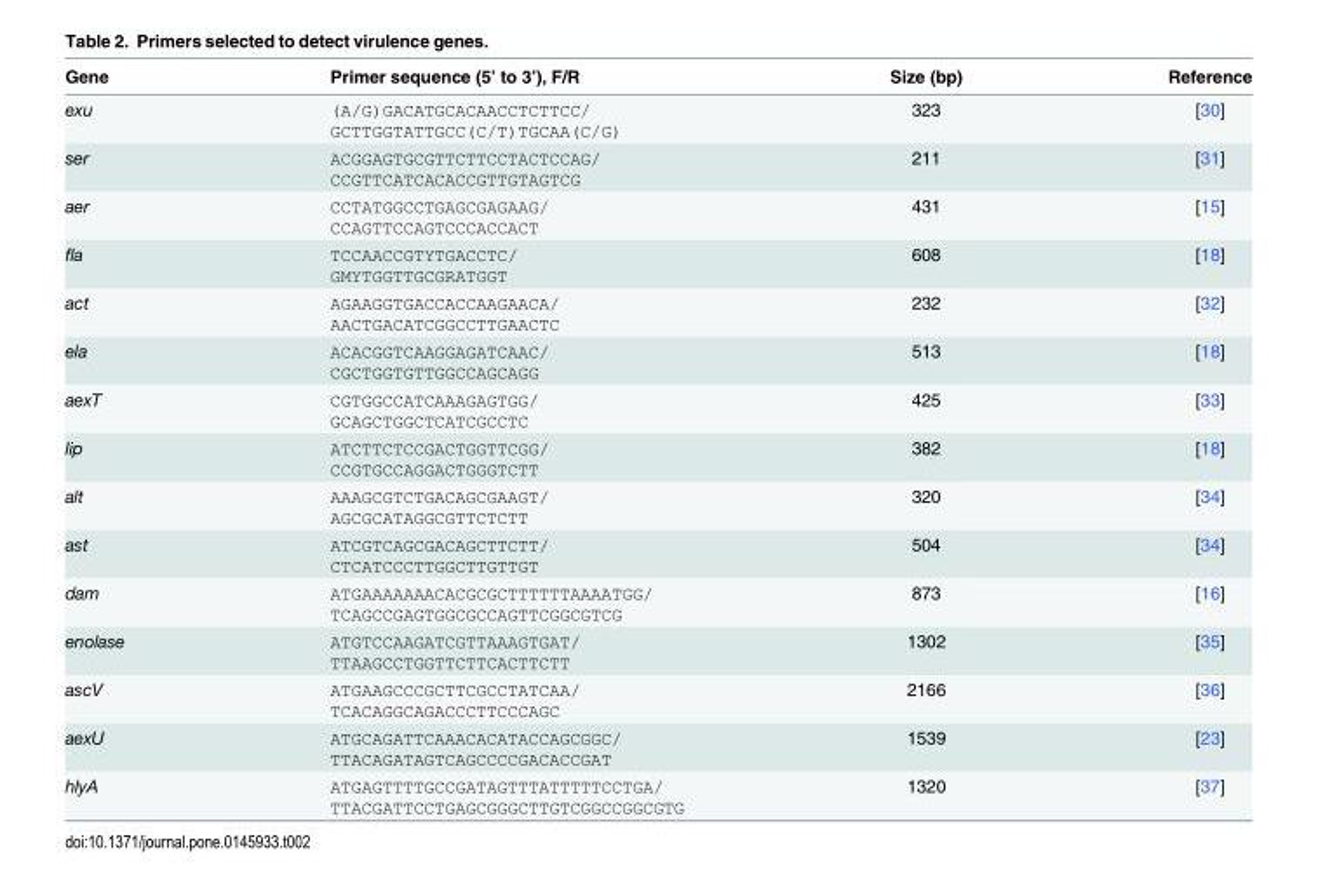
<table><thead><tr><td>Gene</td><td>Primer sequence (5’ to 3’), F/R</td><td>Size (bp)</td><td>Reference</td></tr></thead><tbody><tr><td>exu</td><td>(A/G)GACATGCACAACCTCTTCC/ GCTTGGTATTGCC(C/T)TGCAA(C/G)</td><td>323</td><td>[30]</td></tr><tr><td>ser</td><td>ACGGAGTGCGTTCTTCCTACTCCAG/ CCGTTCATCACACCGTTGTAGTCG</td><td>211</td><td>[31]</td></tr><tr><td>aer</td><td>CCTATGGCCTGAGCGAGAAG/ CCAGTTCCAGTCCCACCACT</td><td>431</td><td>[15]</td></tr><tr><td>fla</td><td>TCCAACCGTYTGACCTC/ GMYTGGTTGCGRATGGT</td><td>608</td><td>[18]</td></tr><tr><td>act</td><td>AGAAGGTGACCACCAAGAACA/ AACTGACATCGGCCTTGAACTC</td><td>232</td><td>[32]</td></tr><tr><td>ela</td><td>ACACGGTCAAGGAGATCAAC/ CGCTGGTGTTGGCCAGCAGG</td><td>513</td><td>[18]</td></tr><tr><td>aexT</td><td>CGTGGCCATCAAAGAGTGG/ GCAGCTGGCTCATCGCCTC</td><td>425</td><td>[33]</td></tr><tr><td>lip</td><td>ATCTTCTCCGACTGGTTCGG/ CCGTGCCAGGACTGGGTCTT</td><td>382</td><td>[18]</td></tr><tr><td>alt</td><td>AAAGCGTCTGACAGCGAAGT/ AGCGCATAGGCGTTCTCTT</td><td>320</td><td>[34]</td></tr><tr><td>ast</td><td>ATCGTCAGCGACAGCTTCTT/ CTCATCCCTTGGCTTGTTGT</td><td>504</td><td>[34]</td></tr><tr><td>dam</td><td>ATGAAAAAAACACGCGCTTTTTTAAAATGG/ TCAGCCGAGTGGCGCCAGTTCGGCGTCG</td><td>873</td><td>[16]</td></tr><tr><td>enolase</td><td>ATGTCCAAGATCGTTAAAGTGAT/ TTAAGCCTGGTTCTTCACTTCTT</td><td>1302</td><td>[35]</td></tr><tr><td>ascV</td><td>ATGAAGCCCGCTTCGCCTATCAA/ TCACAGGCAGACCCTTCCCAGC</td><td>2166</td><td>[36]</td></tr><tr><td>aexU</td><td>ATGCAGATTCAAACACATACCAGCGGC/ TTACAGATAGTCAGCCCCGACACCGAT</td><td>1539</td><td>[23]</td></tr><tr><td>hlyA</td><td>ATGAGTTTTGCCGATAGTTTATTTTTCCTGA/ TTACGATTCCTGAGCGGGCTTGTCGGCCGGCGTG</td><td>1320</td><td>[37]</td></tr></tbody></table>